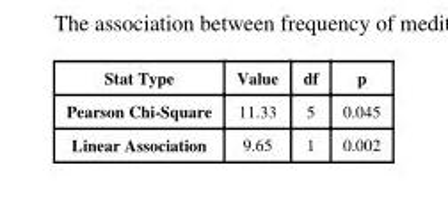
<table><thead><tr><td>Stat Type</td><td>Value</td><td>df</td><td>p</td></tr></thead><tbody><tr><td>Pearson Chi-Square</td><td>11.33</td><td>5</td><td>0.045</td></tr><tr><td>Linear Association</td><td>9.65</td><td>1</td><td>0.002</td></tr></tbody></table>